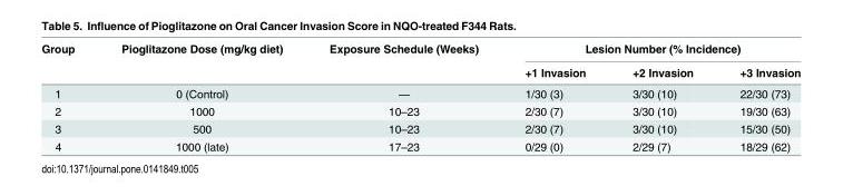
<table><thead><tr><td rowspan="2">Group</td><td rowspan="2">Pioglitazone Dose (mg/kg diet)</td><td rowspan="2">Exposure Schedule (Weeks)</td><td colspan="3">Lesion Number (% Incidence)</td></tr><tr><td>+1 Invasion</td><td>+2 Invasion</td><td>+3 Invasion</td></tr></thead><tbody><tr><td>1</td><td>0 (Control)</td><td>—</td><td>1/30 (3)</td><td>3/30 (10)</td><td>22/30 (73)</td></tr><tr><td>2</td><td>1000</td><td>10–23</td><td>2/30 (7)</td><td>3/30 (10)</td><td>19/30 (63)</td></tr><tr><td>3</td><td>500</td><td>10–23</td><td>2/30 (7)</td><td>3/30 (10)</td><td>15/30 (50)</td></tr><tr><td>4</td><td>1000 (late)</td><td>17–23</td><td>0/29 (0)</td><td>2/29 (7)</td><td>18/29 (62)</td></tr></tbody></table>